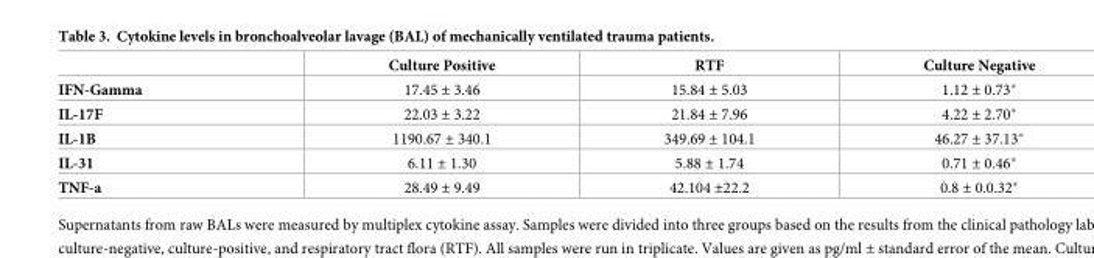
<table><thead><tr><td></td><td>Culture Positive</td><td>RTF</td><td>Culture Negative</td></tr></thead><tbody><tr><td>IFN-Gamma</td><td>17.45 ± 3.46</td><td>15.84 ± 5.03</td><td>1.12 ± 0.73*</td></tr><tr><td>IL-17F</td><td>22.03 ± 3.22</td><td>21.84 ± 7.96</td><td>4.22 ± 2.70*</td></tr><tr><td>IL-1B</td><td>1190.67 ± 340.1</td><td>349.69 ± 104.1</td><td>46.27 ± 37.13*</td></tr><tr><td>IL-31</td><td>6.11 ± 1.30</td><td>5.88 ± 1.74</td><td>0.71 ± 0.46*</td></tr><tr><td>TNF-a</td><td>28.49 ± 9.49</td><td>42.104 ±22.2</td><td>0.8 ± 0.0.32*</td></tr></tbody></table>